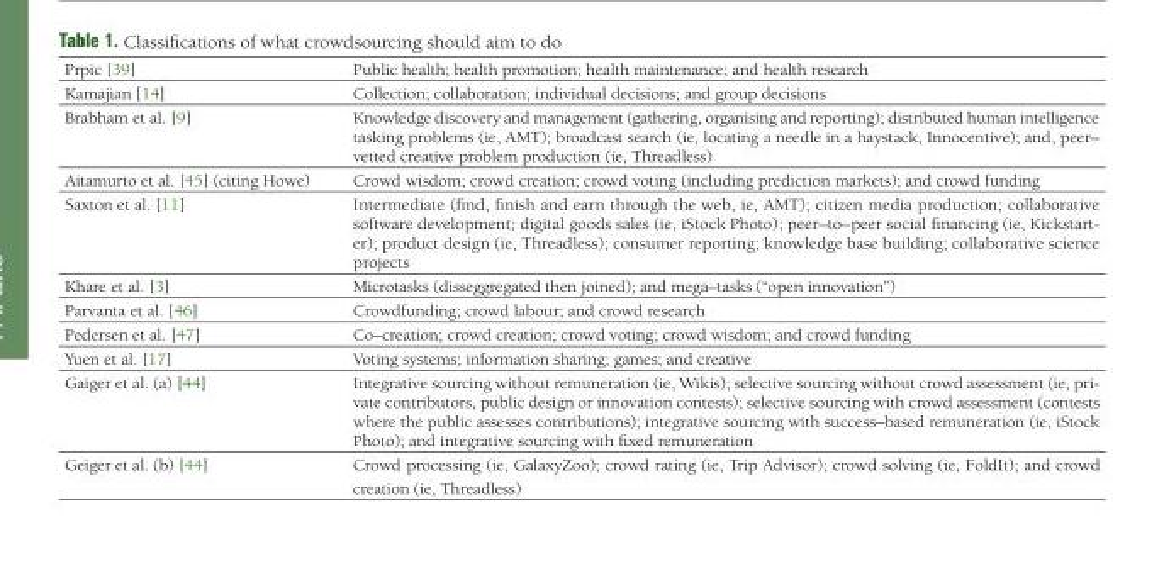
<table><tbody><tr><td>Prpic [39]</td><td>Public health; health promotion; health maintenance; and health research</td></tr><tr><td>Kamajian [14]</td><td>Collection; collaboration; individual decisions; and group decisions</td></tr><tr><td>Brabham et al. [9]</td><td>Knowledge discovery and management (gathering, organising and reporting); distributed human intelligence tasking problems (ie, AMT); broadcast search (ie, locating a needle in a haystack, Innocentive); and, peer– vetted creative problem production (ie, Threadless)</td></tr><tr><td>Aitamurto et al. [45] (citing Howe)</td><td>Crowd wisdom; crowd creation; crowd voting (including prediction markets); and crowd funding</td></tr><tr><td>Saxton et al. [11]</td><td>Intermediate (find, finish and earn through the web, ie, AMT); citizen media production; collaborative software development; digital goods sales (ie, iStock Photo); peer–to–peer social financing (ie, Kickstart- er); product design (ie, Threadless); consumer reporting; knowledge base building; collaborative science projects</td></tr><tr><td>Khare et al. [3]</td><td>Microtasks (disseggregated then joined); and mega–tasks (“open innovation”)</td></tr><tr><td>Parvanta et al. [46]</td><td>Crowdfunding; crowd labour; and crowd research</td></tr><tr><td>Pedersen et al. [47]</td><td>Co–creation; crowd creation; crowd voting; crowd wisdom; and crowd funding</td></tr><tr><td>Yuen et al. [17]</td><td>Voting systems; information sharing; games; and creative</td></tr><tr><td>Gaiger et al. (a) [44]</td><td>Integrative sourcing without remuneration (ie, Wikis); selective sourcing without crowd assessment (ie, pri- vate contributors, public design or innovation contests); selective sourcing with crowd assessment (contests where the public assesses contributions); integrative sourcing with success–based remuneration (ie, iStock Photo); and integrative sourcing with fixed remuneration</td></tr><tr><td>Geiger et al. (b) [44]</td><td>Crowd processing (ie, GalaxyZoo); crowd rating (ie, Trip Advisor); crowd solving (ie, FoldIt); and crowd creation (ie, Threadless)</td></tr></tbody></table>